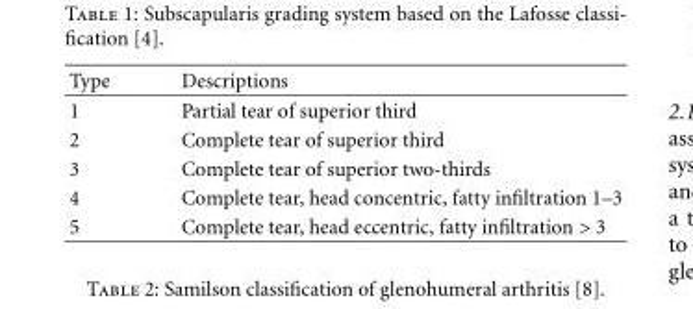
<table><thead><tr><td>Type</td><td>Descriptions</td></tr></thead><tbody><tr><td>1</td><td>Partial tear of superior third</td></tr><tr><td>2</td><td>Complete tear of superior third</td></tr><tr><td>3</td><td>Complete tear of superior two-thirds</td></tr><tr><td>4</td><td>Complete tear, head concentric, fatty infiltration 1–3</td></tr><tr><td>5</td><td>Complete tear, head eccentric, fatty infiltration &gt; 3</td></tr></tbody></table>